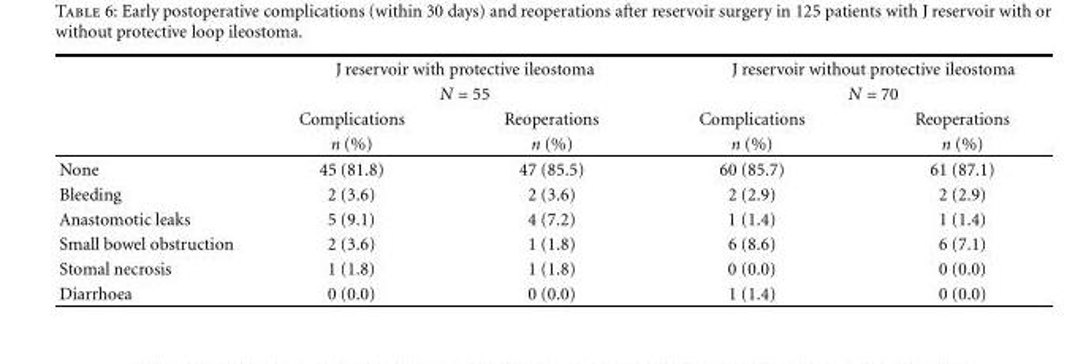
<table><thead><tr><td rowspan="4"></td><td rowspan="2" colspan="2">J reservoir with protective ileostoma N = 55</td><td rowspan="2" colspan="2">J reservoir without protective ileostoma N = 70</td></tr><tr></tr><tr><td rowspan="2">Complications n (%)</td><td rowspan="2">Reoperations n (%)</td><td rowspan="2">Complications n (%)</td><td rowspan="2">Reoperations n (%)</td></tr><tr></tr></thead><tbody><tr><td>None</td><td>45 (81.8)</td><td>47 (85.5)</td><td>60 (85.7)</td><td>61 (87.1)</td></tr><tr><td>Bleeding</td><td>2 (3.6)</td><td>2 (3.6)</td><td>2 (2.9)</td><td>2 (2.9)</td></tr><tr><td>Anastomotic leaks</td><td>5 (9.1)</td><td>4 (7.2)</td><td>1 (1.4)</td><td>1 (1.4)</td></tr><tr><td>Small bowel obstruction</td><td>2 (3.6)</td><td>1 (1.8)</td><td>6 (8.6)</td><td>6 (7.1)</td></tr><tr><td>Stomal necrosis</td><td>1 (1.8)</td><td>1 (1.8)</td><td>0 (0.0)</td><td>0 (0.0)</td></tr><tr><td>Diarrhoea</td><td>0 (0.0)</td><td>0 (0.0)</td><td>1 (1.4)</td><td>0 (0.0)</td></tr></tbody></table>